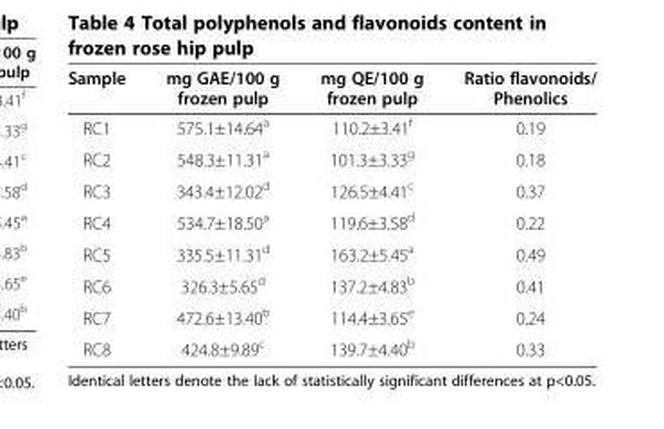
<table><thead><tr><td>Sample</td><td>mg GAE/100 g frozen pulp</td><td>mg QE/100 g frozen pulp</td><td>Ratio flavonoids/ Phenolics</td></tr></thead><tbody><tr><td>RC1</td><td>575.1±14.64<sup>a</sup></td><td>110.2±3.41<sup>f</sup></td><td>0.19</td></tr><tr><td>RC2</td><td>548.3±11.31<sup>a</sup></td><td>101.3±3.33<sup>g</sup></td><td>0.18</td></tr><tr><td>RC3</td><td>343.4±12.02<sup>d</sup></td><td>126.5±4.41<sup>c</sup></td><td>0.37</td></tr><tr><td>RC4</td><td>534.7±18.50<sup>a</sup></td><td>119.6±3.58<sup>d</sup></td><td>0.22</td></tr><tr><td>RC5</td><td>335.5±11.31<sup>d</sup></td><td>163.2±5.45<sup>a</sup></td><td>0.49</td></tr><tr><td>RC6</td><td>326.3±5.65<sup>d</sup></td><td>137.2±4.83<sup>b</sup></td><td>0.41</td></tr><tr><td>RC7</td><td>472.6±13.40<sup>b</sup></td><td>114.4±3.65<sup>e</sup></td><td>0.24</td></tr><tr><td>RC8</td><td>424.8±9.89<sup>c</sup></td><td>139.7±4.40<sup>b</sup></td><td>0.33</td></tr></tbody></table>